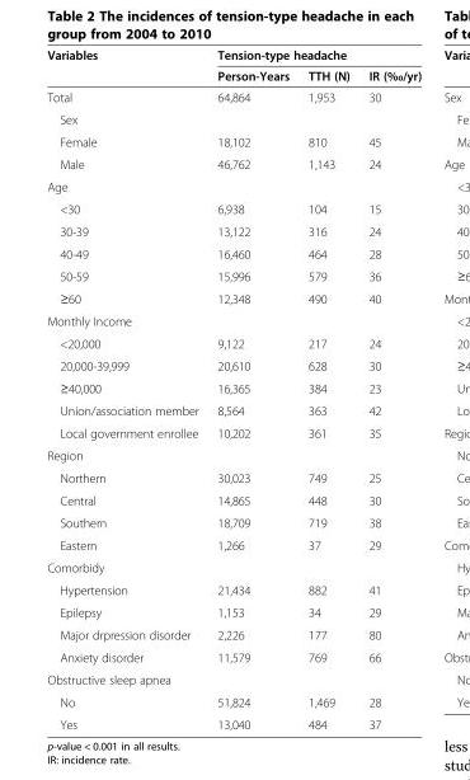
<table><thead><tr><td rowspan="2">Variables</td><td colspan="3">Tension-type headache</td></tr><tr><td>Person-Years</td><td>TTH (N)</td><td>IR (‰/yr)</td></tr></thead><tbody><tr><td>Total</td><td>64,864</td><td>1,953</td><td>30</td></tr><tr><td colspan="4">Sex</td></tr><tr><td>Female</td><td>18,102</td><td>810</td><td>45</td></tr><tr><td>Male</td><td>46,762</td><td>1,143</td><td>24</td></tr><tr><td colspan="4">Age</td></tr><tr><td>&lt;30</td><td>6,938</td><td>104</td><td>15</td></tr><tr><td>30-39</td><td>13,122</td><td>316</td><td>24</td></tr><tr><td>40-49</td><td>16,460</td><td>464</td><td>28</td></tr><tr><td>50-59</td><td>15,996</td><td>579</td><td>36</td></tr><tr><td>≥60</td><td>12,348</td><td>490</td><td>40</td></tr><tr><td colspan="4">Monthly Income</td></tr><tr><td>&lt;20,000</td><td>9,122</td><td>217</td><td>24</td></tr><tr><td>20,000-39,999</td><td>20,610</td><td>628</td><td>30</td></tr><tr><td>≥40,000</td><td>16,365</td><td>384</td><td>23</td></tr><tr><td>Union/association member</td><td>8,564</td><td>363</td><td>42</td></tr><tr><td>Local government enrollee</td><td>10,202</td><td>361</td><td>35</td></tr><tr><td colspan="4">Region</td></tr><tr><td>Northern</td><td>30,023</td><td>749</td><td>25</td></tr><tr><td>Central</td><td>14,865</td><td>448</td><td>30</td></tr><tr><td>Southern</td><td>18,709</td><td>719</td><td>38</td></tr><tr><td>Eastern</td><td>1,266</td><td>37</td><td>29</td></tr><tr><td colspan="4">Comorbidy</td></tr><tr><td>Hypertension</td><td>21,434</td><td>882</td><td>41</td></tr><tr><td>Epilepsy</td><td>1,153</td><td>34</td><td>29</td></tr><tr><td>Major drpression disorder</td><td>2,226</td><td>177</td><td>80</td></tr><tr><td>Anxiety disorder</td><td>11,579</td><td>769</td><td>66</td></tr><tr><td colspan="4">Obstructive sleep apnea</td></tr><tr><td>No</td><td>51,824</td><td>1,469</td><td>28</td></tr><tr><td>Yes</td><td>13,040</td><td>484</td><td>37</td></tr></tbody></table>